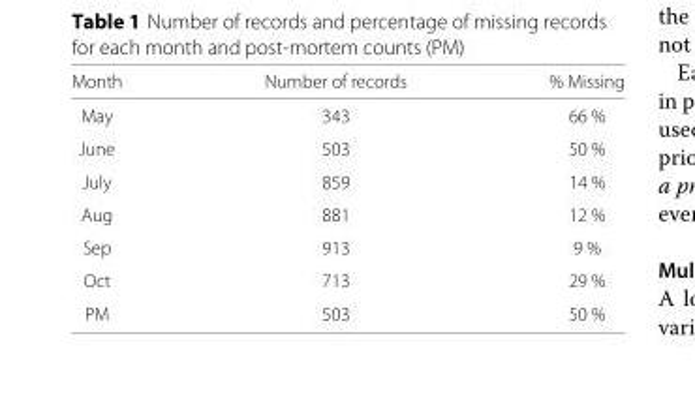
<table><thead><tr><td>Month</td><td>Number of records</td><td>% Missing</td></tr></thead><tbody><tr><td>May</td><td>343</td><td>66 %</td></tr><tr><td>June</td><td>503</td><td>50 %</td></tr><tr><td>July</td><td>859</td><td>14 %</td></tr><tr><td>Aug</td><td>881</td><td>12 %</td></tr><tr><td>Sep</td><td>913</td><td>9 %</td></tr><tr><td>Oct</td><td>713</td><td>29 %</td></tr><tr><td>PM</td><td>503</td><td>50 %</td></tr></tbody></table>